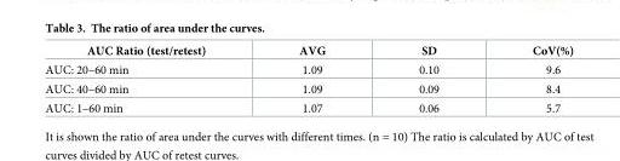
<table><thead><tr><td>AUC Ratio (test/retest)</td><td>AVG</td><td>SD</td><td>CoV(%)</td></tr></thead><tbody><tr><td>AUC: 20–60 min</td><td>1.09</td><td>0.10</td><td>9.6</td></tr><tr><td>AUC: 40–60 min</td><td>1.09</td><td>0.09</td><td>8.4</td></tr><tr><td>AUC: 1–60 min</td><td>1.07</td><td>0.06</td><td>5.7</td></tr></tbody></table>